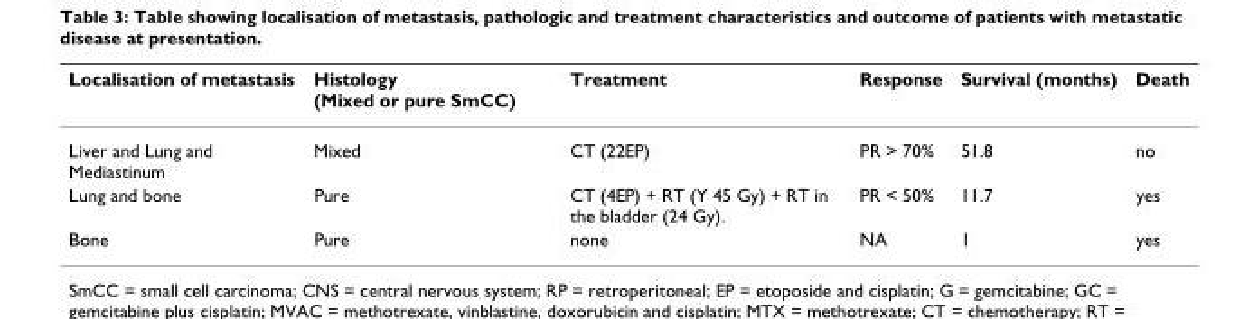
<table><thead><tr><td>Localisation of metastasis</td><td>Histology (Mixed or pure SmCC)</td><td>Treatment</td><td>Response</td><td>Survival (months)</td><td>Death</td></tr></thead><tbody><tr><td>Liver and Lung and Mediastinum</td><td>Mixed</td><td>CT (22EP)</td><td>PR &gt; 70%</td><td>51.8</td><td>no</td></tr><tr><td>Lung and bone</td><td>Pure</td><td>CT (4EP) + RT (Y 45 Gy) + RT in the bladder (24 Gy).</td><td>PR &lt; 50%</td><td>11.7</td><td>yes</td></tr><tr><td>Bone</td><td>Pure</td><td>none</td><td>NA</td><td>1</td><td>yes</td></tr></tbody></table>